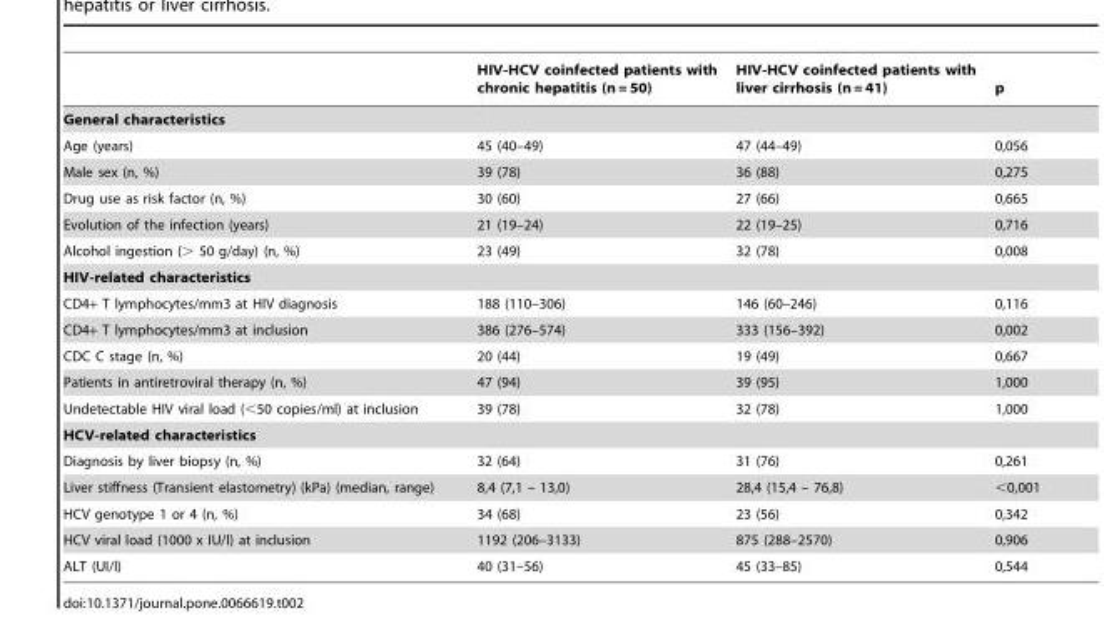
<table><thead><tr><td></td><td>HIV-HCV coinfected patients with chronic hepatitis (n = 50)</td><td>HIV-HCV coinfected patients with liver cirrhosis (n = 41)</td><td>p</td></tr></thead><tbody><tr><td colspan="4">General characteristics</td></tr><tr><td>Age (years)</td><td>45 (40–49)</td><td>47 (44–49)</td><td>0,056</td></tr><tr><td>Male sex (n, %)</td><td>39 (78)</td><td>36 (88)</td><td>0,275</td></tr><tr><td>Drug use as risk factor (n, %)</td><td>30 (60)</td><td>27 (66)</td><td>0,665</td></tr><tr><td>Evolution of the infection (years)</td><td>21 (19–24)</td><td>22 (19–25)</td><td>0,716</td></tr><tr><td>Alcohol ingestion (&gt; 50 g/day) (n, %)</td><td>23 (49)</td><td>32 (78)</td><td>0,008</td></tr><tr><td colspan="4">HIV-related characteristics</td></tr><tr><td>CD4+ T lymphocytes/mm3 at HIV diagnosis</td><td>188 (110–306)</td><td>146 (60–246)</td><td>0,116</td></tr><tr><td>CD4+ T lymphocytes/mm3 at inclusion</td><td>386 (276–574)</td><td>333 (156–392)</td><td>0,002</td></tr><tr><td>CDC C stage (n, %)</td><td>20 (44)</td><td>19 (49)</td><td>0,667</td></tr><tr><td>Patients in antiretroviral therapy (n, %)</td><td>47 (94)</td><td>39 (95)</td><td>1,000</td></tr><tr><td>Undetectable HIV viral load (&lt;50 copies/ml) at inclusion</td><td>39 (78)</td><td>32 (78)</td><td>1,000</td></tr><tr><td colspan="4">HCV-related characteristics</td></tr><tr><td>Diagnosis by liver biopsy (n, %)</td><td>32 (64)</td><td>31 (76)</td><td>0,261</td></tr><tr><td>Liver stiffness (Transient elastometry) (kPa) (median, range)</td><td>8,4 (7,1 – 13,0)</td><td>28,4 (15,4 – 76,8)</td><td>&lt;0,001</td></tr><tr><td>HCV genotype 1 or 4 (n, %)</td><td>34 (68)</td><td>23 (56)</td><td>0,342</td></tr><tr><td>HCV viral load (1000 x IU/l) at inclusion</td><td>1192 (206–3133)</td><td>875 (288–2570)</td><td>0,906</td></tr><tr><td>ALT (UI/l)</td><td>40 (31–56)</td><td>45 (33–85)</td><td>0,544</td></tr></tbody></table>